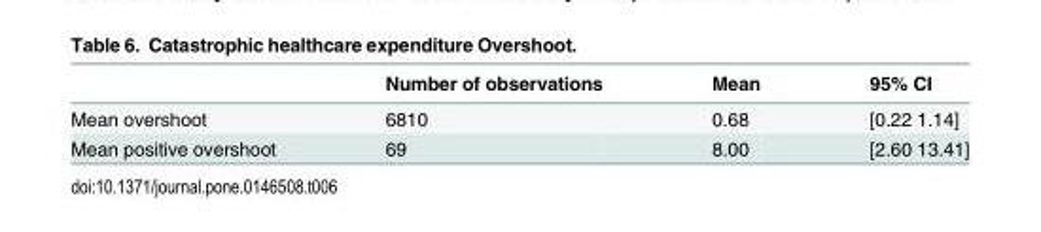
<table><thead><tr><td></td><td>Number of observations</td><td>Mean</td><td>95% CI</td></tr></thead><tbody><tr><td>Mean overshoot</td><td>6810</td><td>0.68</td><td>[0.22 1.14]</td></tr><tr><td>Mean positive overshoot</td><td>69</td><td>8.00</td><td>[2.60 13.41]</td></tr></tbody></table>